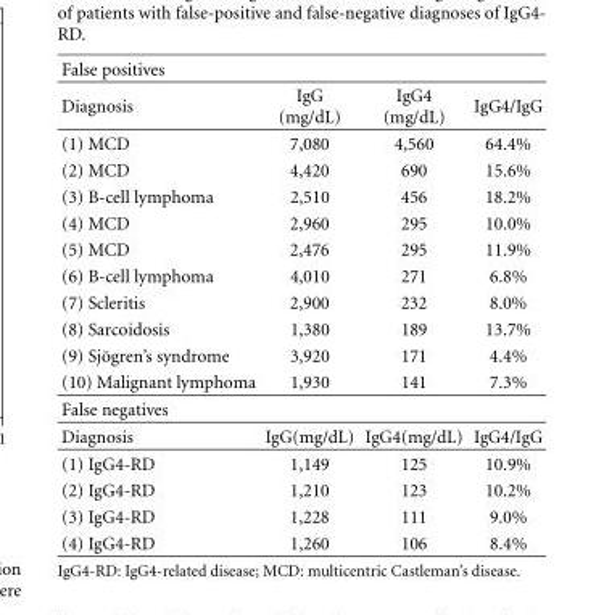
<table><tbody><tr><td colspan="4">False positives</td></tr><tr><td>Diagnosis</td><td>IgG (mg/dL)</td><td>IgG4 (mg/dL)</td><td>IgG4/IgG</td></tr><tr><td>(1) MCD</td><td>7,080</td><td>4,560</td><td>64.4%</td></tr><tr><td>(2) MCD</td><td>4,420</td><td>690</td><td>15.6%</td></tr><tr><td>(3) B-cell lymphoma</td><td>2,510</td><td>456</td><td>18.2%</td></tr><tr><td>(4) MCD</td><td>2,960</td><td>295</td><td>10.0%</td></tr><tr><td>(5) MCD</td><td>2,476</td><td>295</td><td>11.9%</td></tr><tr><td>(6) B-cell lymphoma</td><td>4,010</td><td>271</td><td>6.8%</td></tr><tr><td>(7) Scleritis</td><td>2,900</td><td>232</td><td>8.0%</td></tr><tr><td>(8) Sarcoidosis</td><td>1,380</td><td>189</td><td>13.7%</td></tr><tr><td>(9) Sj¨ogren’s syndrome</td><td>3,920</td><td>171</td><td>4.4%</td></tr><tr><td>(10) Malignant lymphoma</td><td>1,930</td><td>141</td><td>7.3%</td></tr><tr><td colspan="4">False negatives</td></tr><tr><td>Diagnosis</td><td>IgG(mg/dL)</td><td>IgG4(mg/dL)</td><td>IgG4/IgG</td></tr><tr><td>(1) IgG4-RD</td><td>1,149</td><td>125</td><td>10.9%</td></tr><tr><td>(2) IgG4-RD</td><td>1,210</td><td>123</td><td>10.2%</td></tr><tr><td>(3) IgG4-RD</td><td>1,228</td><td>111</td><td>9.0%</td></tr><tr><td>(4) IgG4-RD</td><td>1,260</td><td>106</td><td>8.4%</td></tr></tbody></table>